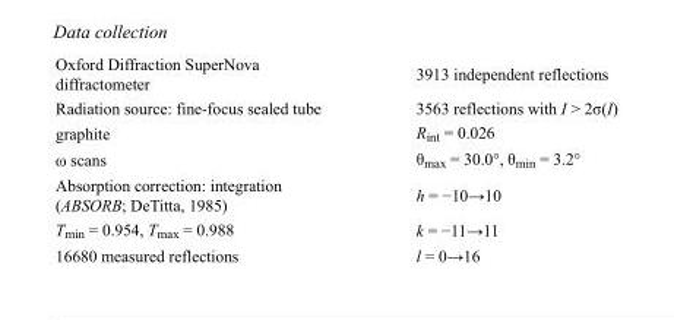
<table><tbody><tr><td>Oxford Diffraction SuperNova diffractometer</td><td>3913 independent reflections</td></tr><tr><td>Radiation source: fine-focus sealed tube</td><td>3563 reflections with I &gt; 2σ(I)</td></tr><tr><td>graphite</td><td>R<sub>int</sub> = 0.026</td></tr><tr><td>ω scans</td><td>θ<sub>max</sub> = 30.0°, θ<sub>min</sub> = 3.2°</td></tr><tr><td>Absorption correction: integration (ABSORB; DeTitta, 1985)</td><td>h = −10→10</td></tr><tr><td>T<sub>min</sub> = 0.954, T<sub>max</sub> = 0.988</td><td>k = −11→11</td></tr><tr><td>16680 measured reflections</td><td>l = 0→16</td></tr></tbody></table>